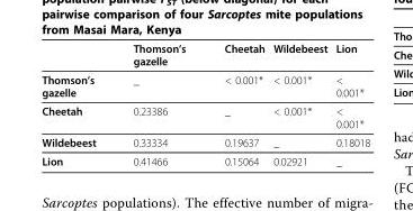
<table><thead><tr><td></td><td>Thomson’s gazelle</td><td>Cheetah</td><td>Wildebeest</td><td>Lion</td></tr></thead><tbody><tr><td>Thomson’s gazelle</td><td>_</td><td>&lt; 0.001*</td><td>&lt; 0.001*</td><td>&lt; 0.001*</td></tr><tr><td>Cheetah</td><td>0.23386</td><td>_</td><td>&lt; 0.001*</td><td>&lt; 0.001*</td></tr><tr><td>Wildebeest</td><td>0.33334</td><td>0.19637</td><td>_</td><td>0.18018</td></tr><tr><td>Lion</td><td>0.41466</td><td>0.15064</td><td>0.02921</td><td>_</td></tr></tbody></table>